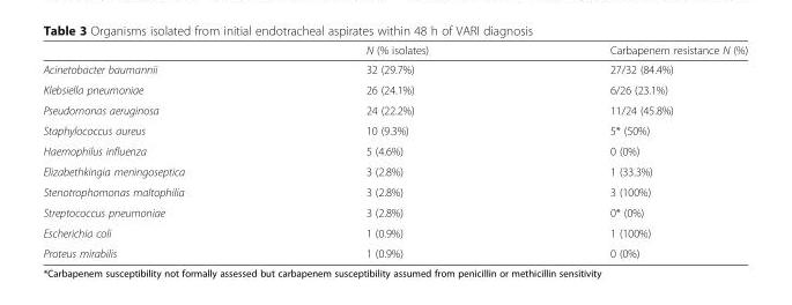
<table><thead><tr><td></td><td>N (% isolates)</td><td>Carbapenem resistance N (%)</td></tr></thead><tbody><tr><td>Acinetobacter baumannii</td><td>32 (29.7%)</td><td>27/32 (84.4%)</td></tr><tr><td>Klebsiella pneumoniae</td><td>26 (24.1%)</td><td>6/26 (23.1%)</td></tr><tr><td>Pseudomonas aeruginosa</td><td>24 (22.2%)</td><td>11/24 (45.8%)</td></tr><tr><td>Staphylococcus aureus</td><td>10 (9.3%)</td><td>5* (50%)</td></tr><tr><td>Haemophilus influenza</td><td>5 (4.6%)</td><td>0 (0%)</td></tr><tr><td>Elizabethkingia meningoseptica</td><td>3 (2.8%)</td><td>1 (33.3%)</td></tr><tr><td>Stenotrophomonas maltophilia</td><td>3 (2.8%)</td><td>3 (100%)</td></tr><tr><td>Streptococcus pneumoniae</td><td>3 (2.8%)</td><td>0* (0%)</td></tr><tr><td>Escherichia coli</td><td>1 (0.9%)</td><td>1 (100%)</td></tr><tr><td>Proteus mirabilis</td><td>1 (0.9%)</td><td>0 (0%)</td></tr></tbody></table>